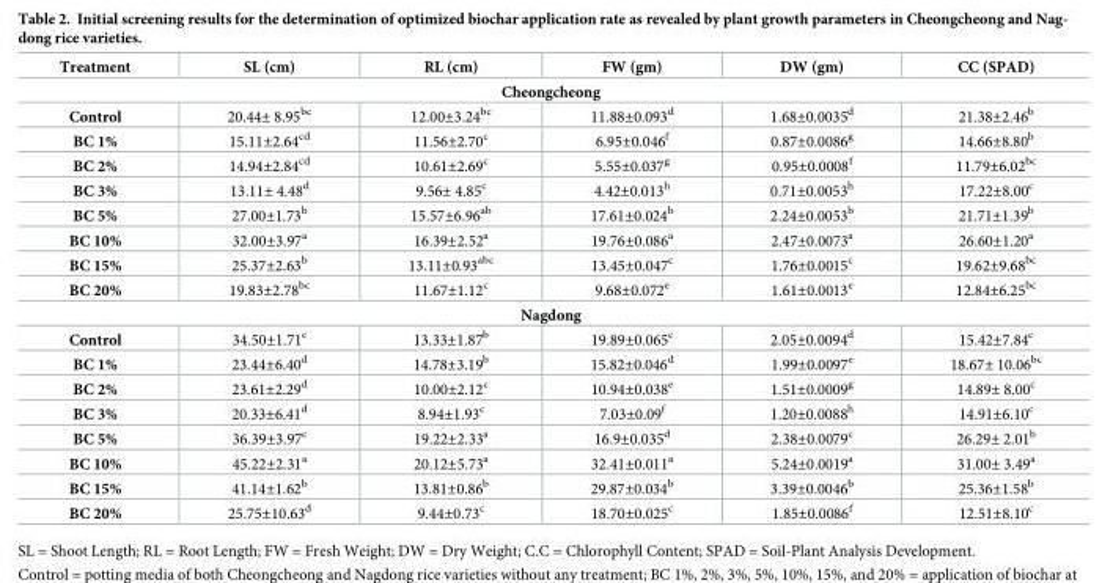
<table><thead><tr><td>Treatment</td><td>SL (cm)</td><td>RL (cm)</td><td>FW (gm)</td><td>DW (gm)</td><td>CC (SPAD)</td></tr></thead><tbody><tr><td colspan="6">Cheongcheong</td></tr><tr><td>Control</td><td>20.44± 8.95<sup>bc</sup></td><td>12.00±3.24<sup>bc</sup></td><td>11.88±0.093<sup>d</sup></td><td>1.68±0.0035<sup>d</sup></td><td>21.38±2.46<sup>b</sup></td></tr><tr><td>BC 1%</td><td>15.11±2.64<sup>cd</sup></td><td>11.56±2.70<sup>c</sup></td><td>6.95±0.046<sup>f</sup></td><td>0.87±0.0086<sup>g</sup></td><td>14.66±8.80<sup>b</sup></td></tr><tr><td>BC 2%</td><td>14.94±2.84<sup>cd</sup></td><td>10.61±2.69<sup>c</sup></td><td>5.55±0.037<sup>g</sup></td><td>0.95±0.0008<sup>f</sup></td><td>11.79±6.02<sup>bc</sup></td></tr><tr><td>BC 3%</td><td>13.11± 4.48<sup>d</sup></td><td>9.56± 4.85<sup>c</sup></td><td>4.42±0.013<sup>h</sup></td><td>0.71±0.0053<sup>h</sup></td><td>17.22±8.00<sup>c</sup></td></tr><tr><td>BC 5%</td><td>27.00±1.73<sup>b</sup></td><td>15.57±6.96<sup>ab</sup></td><td>17.61±0.024<sup>b</sup></td><td>2.24±0.0053<sup>b</sup></td><td>21.71±1.39<sup>b</sup></td></tr><tr><td>BC 10%</td><td>32.00±3.97<sup>a</sup></td><td>16.39±2.52<sup>a</sup></td><td>19.76±0.086<sup>a</sup></td><td>2.47±0.0073<sup>a</sup></td><td>26.60±1.20<sup>a</sup></td></tr><tr><td>BC 15%</td><td>25.37±2.63<sup>b</sup></td><td>13.11±0.93<sup>abc</sup></td><td>13.45±0.047<sup>c</sup></td><td>1.76±0.0015<sup>c</sup></td><td>19.62±9.68<sup>bc</sup></td></tr><tr><td>BC 20%</td><td>19.83±2.78<sup>bc</sup></td><td>11.67±1.12<sup>c</sup></td><td>9.68±0.072<sup>e</sup></td><td>1.61±0.0013<sup>e</sup></td><td>12.84±6.25<sup>bc</sup></td></tr><tr><td colspan="6">Nagdong</td></tr><tr><td>Control</td><td>34.50±1.71<sup>c</sup></td><td>13.33±1.87<sup>b</sup></td><td>19.89±0.065<sup>c</sup></td><td>2.05±0.0094<sup>d</sup></td><td>15.42±7.84<sup>c</sup></td></tr><tr><td>BC 1%</td><td>23.44±6.40<sup>d</sup></td><td>14.78±3.19<sup>b</sup></td><td>15.82±0.046<sup>d</sup></td><td>1.99±0.0097<sup>e</sup></td><td>18.67± 10.06<sup>bc</sup></td></tr><tr><td>BC 2%</td><td>23.61±2.29<sup>d</sup></td><td>10.00±2.12<sup>c</sup></td><td>10.94±0.038<sup>e</sup></td><td>1.51±0.0009<sup>g</sup></td><td>14.89± 8.00<sup>c</sup></td></tr><tr><td>BC 3%</td><td>20.33±6.41<sup>d</sup></td><td>8.94±1.93<sup>c</sup></td><td>7.03±0.09<sup>f</sup></td><td>1.20±0.0088<sup>h</sup></td><td>14.91±6.10<sup>c</sup></td></tr><tr><td>BC 5%</td><td>36.39±3.97<sup>c</sup></td><td>19.22±2.33<sup>a</sup></td><td>16.9±0.035<sup>d</sup></td><td>2.38±0.0079<sup>c</sup></td><td>26.29± 2.01<sup>b</sup></td></tr><tr><td>BC 10%</td><td>45.22±2.31<sup>a</sup></td><td>20.12±5.73<sup>a</sup></td><td>32.41±0.011<sup>a</sup></td><td>5.24±0.0019<sup>a</sup></td><td>31.00± 3.49<sup>a</sup></td></tr><tr><td>BC 15%</td><td>41.14±1.62<sup>b</sup></td><td>13.81±0.86<sup>b</sup></td><td>29.87±0.034<sup>b</sup></td><td>3.39±0.0046<sup>b</sup></td><td>25.36±1.58<sup>b</sup></td></tr><tr><td>BC 20%</td><td>25.75±10.63<sup>d</sup></td><td>9.44±0.73<sup>c</sup></td><td>18.70±0.025<sup>c</sup></td><td>1.85±0.0086<sup>f</sup></td><td>12.51±8.10<sup>c</sup></td></tr></tbody></table>